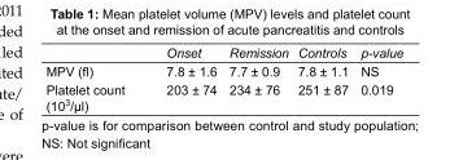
<table><thead><tr><td></td><td>Onset</td><td>Remission</td><td>Controls</td><td>p-value</td></tr></thead><tbody><tr><td>MPV (fl)</td><td>7.8 ± 1.6</td><td>7.7 ± 0.9</td><td>7.8 ± 1.1</td><td>NS</td></tr><tr><td>Platelet count (10<sup>3</sup>/µl)</td><td>203 ± 74</td><td>234 ± 76</td><td>251 ± 87</td><td>0.019</td></tr></tbody></table>